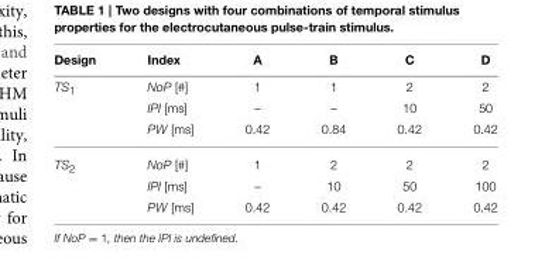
<table><thead><tr><td>Design</td><td>Index</td><td>A</td><td>B</td><td>C</td><td>D</td></tr></thead><tbody><tr><td rowspan="3">TS<sub>1</sub></td><td>NoP [#]</td><td>1</td><td>1</td><td>2</td><td>2</td></tr><tr><td>IPI [ms]</td><td>–</td><td>–</td><td>10</td><td>50</td></tr><tr><td>PW [ms]</td><td>0.42</td><td>0.84</td><td>0.42</td><td>0.42</td></tr><tr><td rowspan="3">TS<sub>2</sub></td><td>NoP [#]</td><td>1</td><td>2</td><td>2</td><td>2</td></tr><tr><td>IPI [ms]</td><td>–</td><td>10</td><td>50</td><td>100</td></tr><tr><td>PW [ms]</td><td>0.42</td><td>0.42</td><td>0.42</td><td>0.42</td></tr></tbody></table>